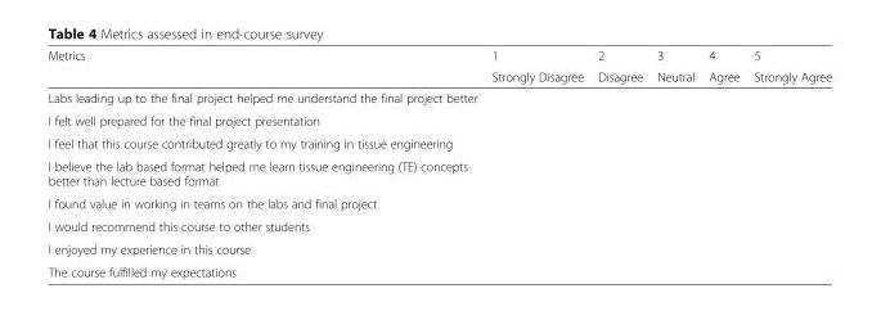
<table><thead><tr><td rowspan="2">Metrics</td><td rowspan="2">1 Strongly Disagree</td><td rowspan="2">2 Disagree</td><td rowspan="2">3 Neutral</td><td rowspan="2">4 Agree</td><td rowspan="2">5 Strongly Agree</td></tr><tr></tr></thead><tbody><tr><td colspan="6">Labs leading up to the final project helped me understand the final project better</td></tr><tr><td colspan="6">I felt well prepared for the final project presentation</td></tr><tr><td colspan="6">I feel that this course contributed greatly to my training in tissue engineering</td></tr><tr><td colspan="6">I believe the lab based format helped me learn tissue engineering (TE) concepts better than lecture based format</td></tr><tr><td colspan="6">I found value in working in teams on the labs and final project</td></tr><tr><td colspan="6">I would recommend this course to other students</td></tr><tr><td colspan="6">I enjoyed my experience in this course</td></tr><tr><td>The course fulfilled my expectations</td><td colspan="5"></td></tr></tbody></table>